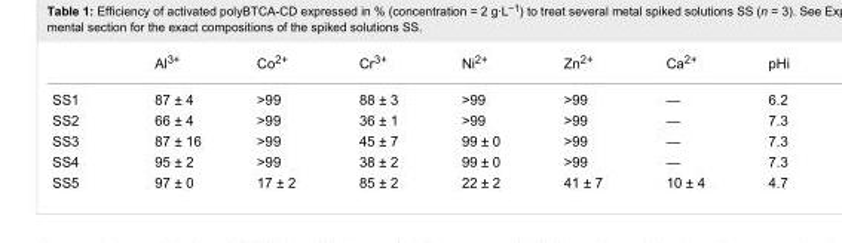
<table><thead><tr><td></td><td>Al<sup>3+</sup></td><td>Co<sup>2+</sup></td><td>Cr<sup>3+</sup></td><td>Ni<sup>2+</sup></td><td>Zn<sup>2+</sup></td><td>Ca<sup>2+</sup></td><td>pHi</td></tr></thead><tbody><tr><td>SS1</td><td>87 ± 4</td><td>&gt;99</td><td>88 ± 3</td><td>&gt;99</td><td>&gt;99</td><td>—</td><td>6.2</td></tr><tr><td>SS2</td><td>66 ± 4</td><td>&gt;99</td><td>36 ± 1</td><td>&gt;99</td><td>&gt;99</td><td>—</td><td>7.3</td></tr><tr><td>SS3</td><td>87 ± 16</td><td>&gt;99</td><td>45 ± 7</td><td>99 ± 0</td><td>&gt;99</td><td>—</td><td>7.3</td></tr><tr><td>SS4</td><td>95 ± 2</td><td>&gt;99</td><td>38 ± 2</td><td>99 ± 0</td><td>&gt;99</td><td>—</td><td>7.3</td></tr><tr><td>SS5</td><td>97 ± 0</td><td>17 ± 2</td><td>85 ± 2</td><td>22 ± 2</td><td>41 ± 7</td><td>10 ± 4</td><td>4.7</td></tr></tbody></table>